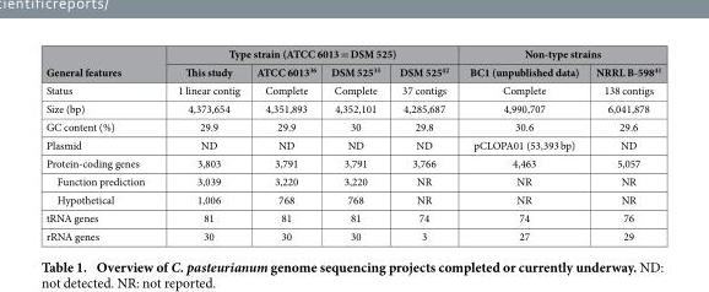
<table><thead><tr><td rowspan="2">General features</td><td colspan="4">Type strain (ATCC 6013 = DSM 525)</td><td colspan="2">Non-type strains</td></tr><tr><td>This study</td><td>ATCC 6013<sup>36</sup></td><td>DSM 525<sup>35</sup></td><td>DSM 525<sup>42</sup></td><td>BC1 (unpublished data)</td><td>NRRL B-598<sup>41</sup></td></tr></thead><tbody><tr><td>Status</td><td>1 linear contig</td><td>Complete</td><td>Complete</td><td>37 contigs</td><td>Complete</td><td>138 contigs</td></tr><tr><td>Size (bp)</td><td>4,373,654</td><td>4,351,893</td><td>4,352,101</td><td>4,285,687</td><td>4,990,707</td><td>6,041,878</td></tr><tr><td>GC content (%)</td><td>29.9</td><td>29.9</td><td>30</td><td>29.8</td><td>30.6</td><td>29.6</td></tr><tr><td>Plasmid</td><td>ND</td><td>ND</td><td>ND</td><td>ND</td><td>pCLOPA01 (53,393 bp)</td><td>ND</td></tr><tr><td>Protein-coding genes</td><td>3,803</td><td>3,791</td><td>3,791</td><td>3,766</td><td>4,463</td><td>5,057</td></tr><tr><td>Function prediction</td><td>3,039</td><td>3,220</td><td>3,220</td><td>NR</td><td>NR</td><td>NR</td></tr><tr><td>Hypothetical</td><td>1,006</td><td>768</td><td>768</td><td>NR</td><td>NR</td><td>NR</td></tr><tr><td>tRNA genes</td><td>81</td><td>81</td><td>81</td><td>74</td><td>74</td><td>76</td></tr><tr><td>rRNA genes</td><td>30</td><td>30</td><td>30</td><td>3</td><td>27</td><td>29</td></tr></tbody></table>